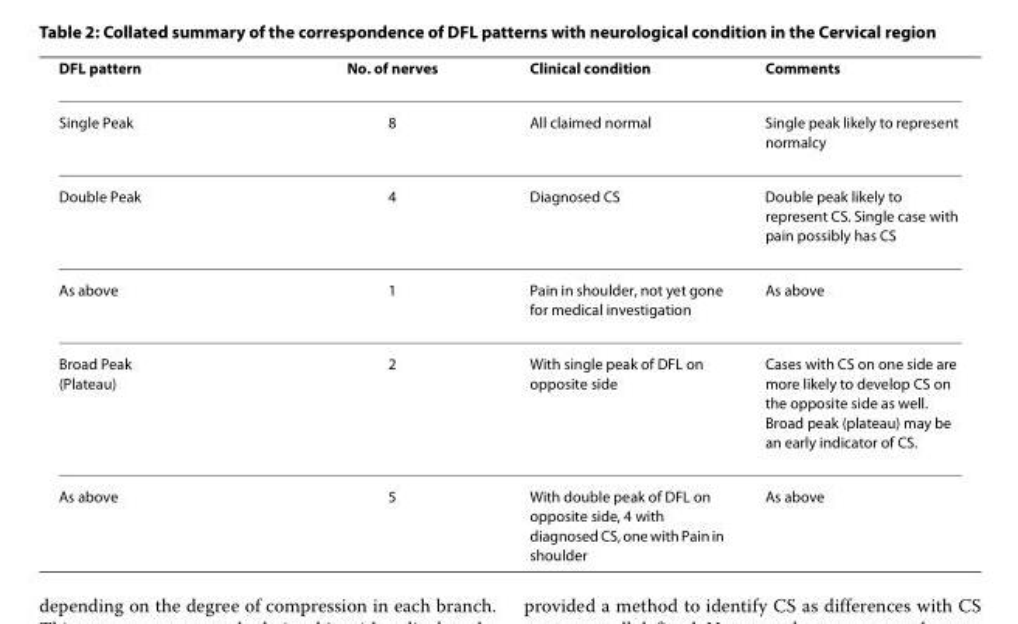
<table><thead><tr><td>DFL pattern</td><td>No. of nerves</td><td>Clinical condition</td><td>Comments</td></tr></thead><tbody><tr><td>Single Peak</td><td>8</td><td>All claimed normal</td><td>Single peak likely to represent normalcy</td></tr><tr><td>Double Peak</td><td>4</td><td>Diagnosed CS</td><td>Double peak likely to represent CS. Single case with pain possibly has CS</td></tr><tr><td>As above</td><td>1</td><td>Pain in shoulder, not yet gone for medical investigation</td><td>As above</td></tr><tr><td>Broad Peak (Plateau)</td><td>2</td><td>With single peak of DFL on opposite side</td><td>Cases with CS on one side are more likely to develop CS on the opposite side as well. Broad peak (plateau) may be an early indicator of CS.</td></tr><tr><td>As above</td><td>5</td><td>With double peak of DFL on opposite side, 4 with diagnosed CS, one with Pain in shoulder</td><td>As above</td></tr></tbody></table>